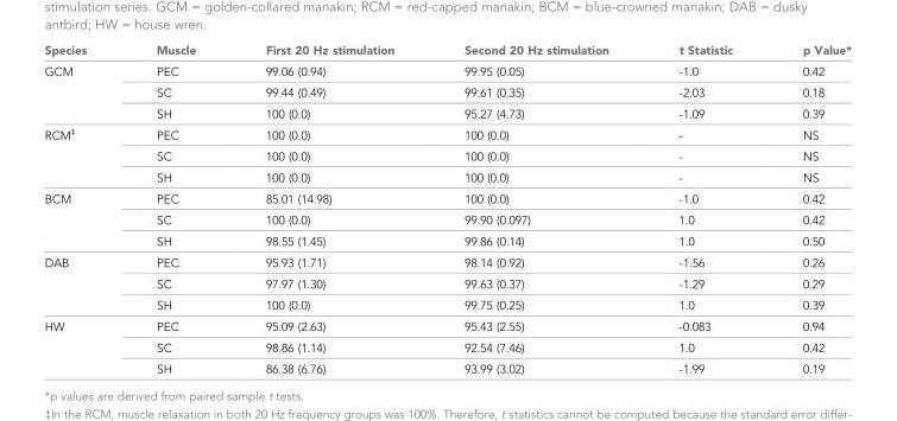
<table><thead><tr><td>Species</td><td>Muscle</td><td>First 20 Hz stimulation</td><td>Second 20 Hz stimulation</td><td>t Statistic</td><td>p Value*</td></tr></thead><tbody><tr><td rowspan="3">GCM</td><td>PEC</td><td>99.06 (0.94)</td><td>99.95 (0.05)</td><td>-1.0</td><td>0.42</td></tr><tr><td>SC</td><td>99.44 (0.49)</td><td>99.61 (0.35)</td><td>-2.03</td><td>0.18</td></tr><tr><td>SH</td><td>100 (0.0)</td><td>95.27 (4.73)</td><td>-1.09</td><td>0.39</td></tr><tr><td rowspan="3">RCM<sup>‡</sup></td><td>PEC</td><td>100 (0.0)</td><td>100 (0.0)</td><td>-</td><td>NS</td></tr><tr><td>SC</td><td>100 (0.0)</td><td>100 (0.0)</td><td>-</td><td>NS</td></tr><tr><td>SH</td><td>100 (0.0)</td><td>100 (0.0)</td><td>-</td><td>NS</td></tr><tr><td rowspan="3">BCM</td><td>PEC</td><td>85.01 (14.98)</td><td>100 (0.0)</td><td>-1.0</td><td>0.42</td></tr><tr><td>SC</td><td>100 (0.0)</td><td>99.90 (0.097)</td><td>1.0</td><td>0.42</td></tr><tr><td>SH</td><td>98.55 (1.45)</td><td>99.86 (0.14)</td><td>1.0</td><td>0.50</td></tr><tr><td rowspan="3">DAB</td><td>PEC</td><td>95.93 (1.71)</td><td>98.14 (0.92)</td><td>-1.56</td><td>0.26</td></tr><tr><td>SC</td><td>97.97 (1.30)</td><td>99.63 (0.37)</td><td>-1.29</td><td>0.29</td></tr><tr><td>SH</td><td>100 (0.0)</td><td>99.75 (0.25)</td><td>1.0</td><td>0.39</td></tr><tr><td rowspan="3">HW</td><td>PEC</td><td>95.09 (2.63)</td><td>95.43 (2.55)</td><td>-0.083</td><td>0.94</td></tr><tr><td>SC</td><td>98.86 (1.14)</td><td>92.54 (7.46)</td><td>1.0</td><td>0.42</td></tr><tr><td>SH</td><td>86.38 (6.76)</td><td>93.99 (3.02)</td><td>-1.99</td><td>0.19</td></tr></tbody></table>